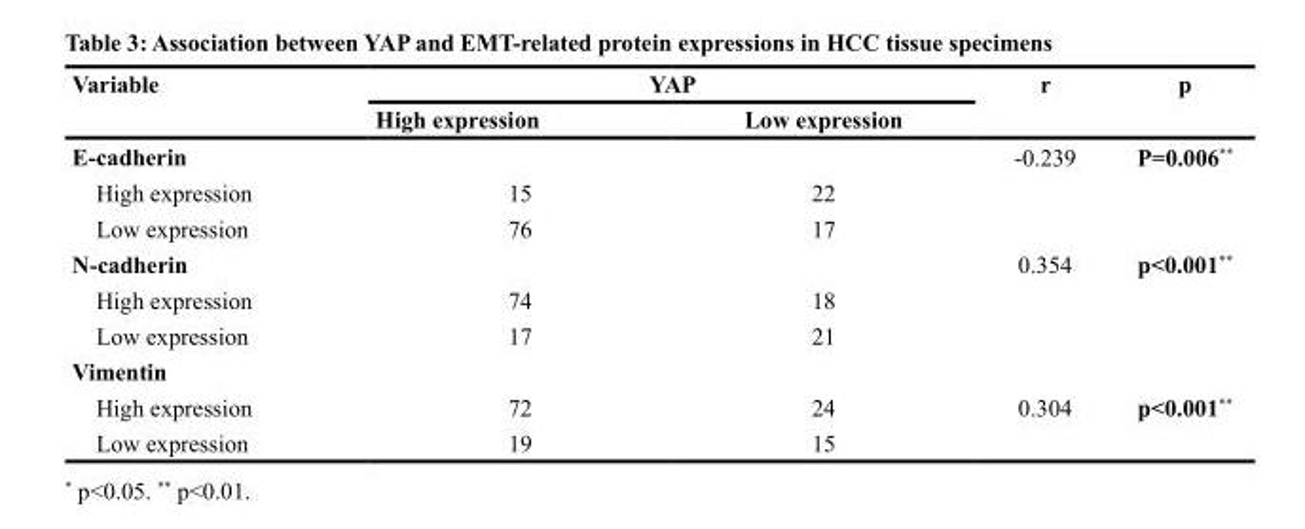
<table><thead><tr><td rowspan="2">Variable</td><td colspan="2">YAP</td><td rowspan="2">r</td><td rowspan="2">p</td></tr><tr><td>High expression</td><td>Low expression</td></tr></thead><tbody><tr><td>E-cadherin</td><td></td><td></td><td>-0.239</td><td>P=0.006**</td></tr><tr><td>High expression</td><td>15</td><td>22</td><td></td><td></td></tr><tr><td>Low expression</td><td>76</td><td>17</td><td></td><td></td></tr><tr><td>N-cadherin</td><td></td><td></td><td>0.354</td><td>p&lt;0.001**</td></tr><tr><td>High expression</td><td>74</td><td>18</td><td></td><td></td></tr><tr><td>Low expression</td><td>17</td><td>21</td><td></td><td></td></tr><tr><td colspan="5">Vimentin</td></tr><tr><td>High expression</td><td>72</td><td>24</td><td>0.304</td><td>p&lt;0.001**</td></tr><tr><td>Low expression</td><td>19</td><td>15</td><td></td><td></td></tr></tbody></table>